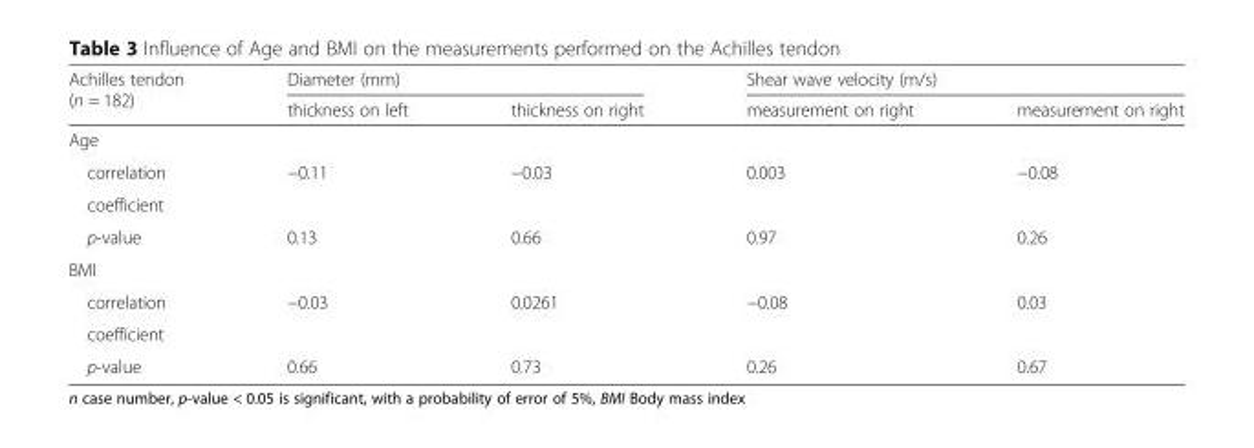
<table><thead><tr><td rowspan="2">Achilles tendon (n = 182)</td><td colspan="2">Diameter (mm)</td><td colspan="2">Shear wave velocity (m/s)</td></tr><tr><td>thickness on left</td><td>thickness on right</td><td>measurement on right</td><td>measurement on right</td></tr></thead><tbody><tr><td colspan="5">Age</td></tr><tr><td>correlation</td><td rowspan="2">−0.11</td><td rowspan="2">−0.03</td><td rowspan="2">0.003</td><td rowspan="2">−0.08</td></tr><tr><td>coefficient</td></tr><tr><td>p-value</td><td>0.13</td><td>0.66</td><td>0.97</td><td>0.26</td></tr><tr><td colspan="5">BMI</td></tr><tr><td>correlation</td><td rowspan="2">−0.03</td><td rowspan="2">0.0261</td><td rowspan="2">−0.08</td><td rowspan="2">0.03</td></tr><tr><td>coefficient</td></tr><tr><td>p-value</td><td>0.66</td><td>0.73</td><td>0.26</td><td>0.67</td></tr></tbody></table>